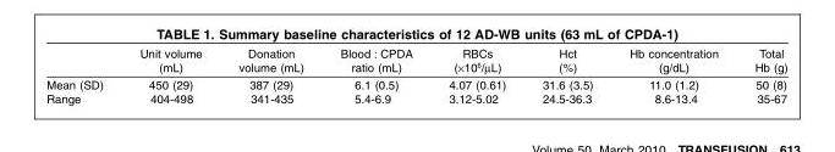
<table><thead><tr><td></td><td>Unit volume (mL)</td><td>Donation volume (mL)</td><td>Blood : CPDA ratio (mL)</td><td>RBCs (×10<sup>6</sup>/µL)</td><td>Hct (%)</td><td>Hb concentration (g/dL)</td><td>Total Hb (g)</td></tr></thead><tbody><tr><td>Mean (SD)</td><td>450 (29)</td><td>387 (29)</td><td>6.1 (0.5)</td><td>4.07 (0.61)</td><td>31.6 (3.5)</td><td>11.0 (1.2)</td><td>50 (8)</td></tr><tr><td>Range</td><td>404-498</td><td>341-435</td><td>5.4-6.9</td><td>3.12-5.02</td><td>24.5-36.3</td><td>8.6-13.4</td><td>35-67</td></tr></tbody></table>